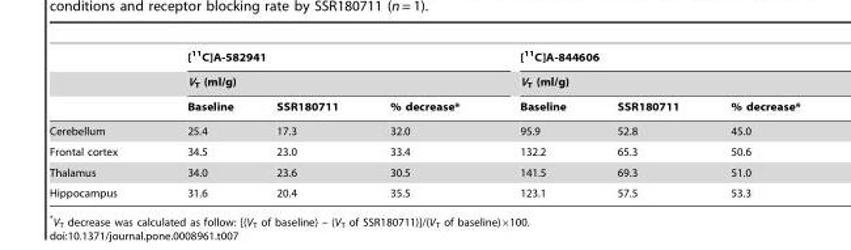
<table><thead><tr><td rowspan="3"></td><td rowspan="2" colspan="3">[<sup>11</sup>C]A-582941 V<sub>T</sub> (ml/g)</td><td rowspan="2" colspan="3">[<sup>11</sup>C]A-844606 V<sub>T</sub> (ml/g)</td></tr><tr></tr><tr><td>Baseline</td><td>SSR180711</td><td>% decrease*</td><td>Baseline</td><td>SSR180711</td><td>% decrease*</td></tr></thead><tbody><tr><td>Cerebellum</td><td>25.4</td><td>17.3</td><td>32.0</td><td>95.9</td><td>52.8</td><td>45.0</td></tr><tr><td>Frontal cortex</td><td>34.5</td><td>23.0</td><td>33.4</td><td>132.2</td><td>65.3</td><td>50.6</td></tr><tr><td>Thalamus</td><td>34.0</td><td>23.6</td><td>30.5</td><td>141.5</td><td>69.3</td><td>51.0</td></tr><tr><td>Hippocampus</td><td>31.6</td><td>20.4</td><td>35.5</td><td>123.1</td><td>57.5</td><td>53.3</td></tr></tbody></table>